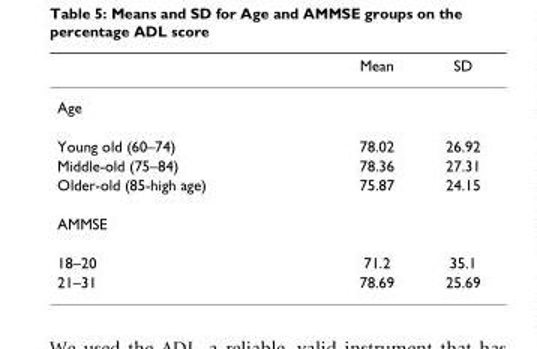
<table><thead><tr><td></td><td>Mean</td><td>SD</td></tr></thead><tbody><tr><td colspan="3">Age</td></tr><tr><td>Young old (60–74)</td><td>78.02</td><td>26.92</td></tr><tr><td>Middle-old (75–84)</td><td>78.36</td><td>27.31</td></tr><tr><td>Older-old (85-high age)</td><td>75.87</td><td>24.15</td></tr><tr><td colspan="3">AMMSE</td></tr><tr><td>18–20</td><td>71.2</td><td>35.1</td></tr><tr><td>21–31</td><td>78.69</td><td>25.69</td></tr></tbody></table>